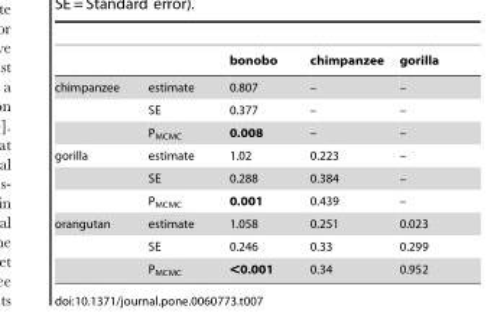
<table><thead><tr><td></td><td></td><td>bonobo</td><td>chimpanzee</td><td>gorilla</td></tr></thead><tbody><tr><td rowspan="3">chimpanzee</td><td>estimate</td><td>0.807</td><td>–</td><td>–</td></tr><tr><td>SE</td><td>0.377</td><td>–</td><td>–</td></tr><tr><td>P<sub>MCMC</sub></td><td>0.008</td><td>–</td><td>–</td></tr><tr><td rowspan="3">gorilla</td><td>estimate</td><td>1.02</td><td>0.223</td><td>–</td></tr><tr><td>SE</td><td>0.288</td><td>0.384</td><td>–</td></tr><tr><td>P<sub>MCMC</sub></td><td>0.001</td><td>0.439</td><td>–</td></tr><tr><td rowspan="3">orangutan</td><td>estimate</td><td>1.058</td><td>0.251</td><td>0.023</td></tr><tr><td>SE</td><td>0.246</td><td>0.33</td><td>0.299</td></tr><tr><td>P<sub>MCMC</sub></td><td>&lt;0.001</td><td>0.34</td><td>0.952</td></tr></tbody></table>